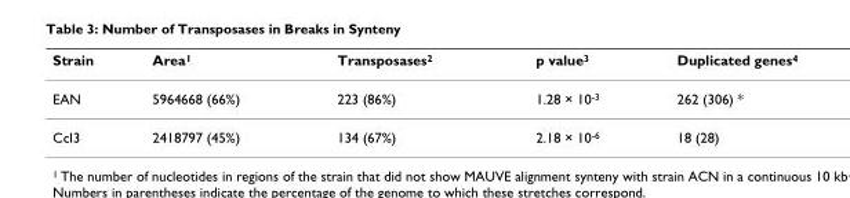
<table><thead><tr><td>Strain</td><td>Area<sup>1</sup></td><td>Transposases<sup>2</sup></td><td>p value<sup>3</sup></td><td>Duplicated genes<sup>4</sup></td></tr></thead><tbody><tr><td>EAN</td><td>5964668 (66%)</td><td>223 (86%)</td><td>1.28 × 10<sup>-3</sup></td><td>262 (306) *</td></tr><tr><td>CcI3</td><td>2418797 (45%)</td><td>134 (67%)</td><td>2.18 × 10<sup>-6</sup></td><td>18 (28)</td></tr></tbody></table>